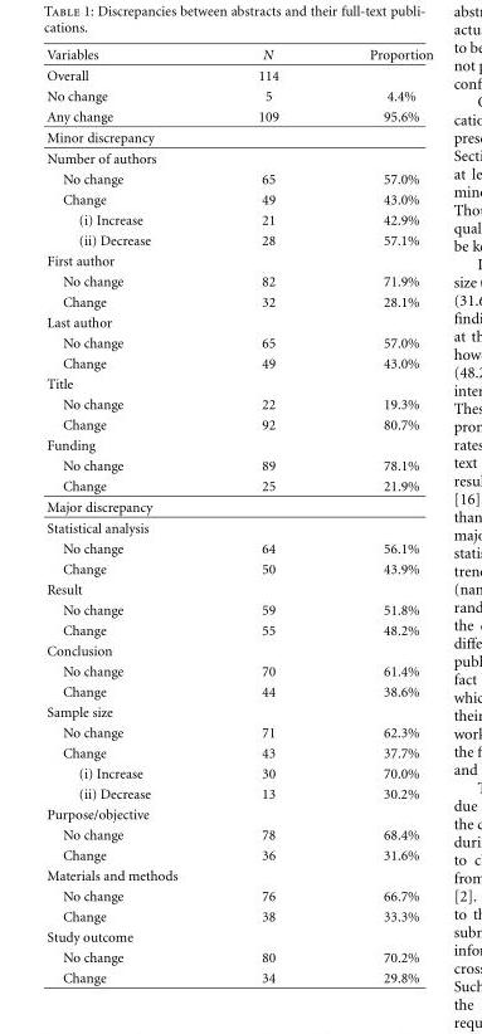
<table><thead><tr><td>Variables</td><td>N</td><td>Proportion</td></tr></thead><tbody><tr><td>Overall</td><td>114</td><td></td></tr><tr><td>No change</td><td>5</td><td>4.4%</td></tr><tr><td>Any change</td><td>109</td><td>95.6%</td></tr><tr><td colspan="3">Minor discrepancy</td></tr><tr><td colspan="3">Number of authors</td></tr><tr><td>No change</td><td>65</td><td>57.0%</td></tr><tr><td>Change</td><td>49</td><td>43.0%</td></tr><tr><td>(i) Increase</td><td>21</td><td>42.9%</td></tr><tr><td>(ii) Decrease</td><td>28</td><td>57.1%</td></tr><tr><td colspan="3">First author</td></tr><tr><td>No change</td><td>82</td><td>71.9%</td></tr><tr><td>Change</td><td>32</td><td>28.1%</td></tr><tr><td colspan="3">Last author</td></tr><tr><td>No change</td><td>65</td><td>57.0%</td></tr><tr><td>Change</td><td>49</td><td>43.0%</td></tr><tr><td colspan="3">Title</td></tr><tr><td>No change</td><td>22</td><td>19.3%</td></tr><tr><td>Change</td><td>92</td><td>80.7%</td></tr><tr><td colspan="3">Funding</td></tr><tr><td>No change</td><td>89</td><td>78.1%</td></tr><tr><td>Change</td><td>25</td><td>21.9%</td></tr><tr><td colspan="3">Major discrepancy</td></tr><tr><td colspan="3">Statistical analysis</td></tr><tr><td>No change</td><td>64</td><td>56.1%</td></tr><tr><td>Change</td><td>50</td><td>43.9%</td></tr><tr><td colspan="3">Result</td></tr><tr><td>No change</td><td>59</td><td>51.8%</td></tr><tr><td>Change</td><td>55</td><td>48.2%</td></tr><tr><td colspan="3">Conclusion</td></tr><tr><td>No change</td><td>70</td><td>61.4%</td></tr><tr><td>Change</td><td>44</td><td>38.6%</td></tr><tr><td colspan="3">Sample size</td></tr><tr><td>No change</td><td>71</td><td>62.3%</td></tr><tr><td>Change</td><td>43</td><td>37.7%</td></tr><tr><td>(i) Increase</td><td>30</td><td>70.0%</td></tr><tr><td>(ii) Decrease</td><td>13</td><td>30.2%</td></tr><tr><td colspan="3">Purpose/objective</td></tr><tr><td>No change</td><td>78</td><td>68.4%</td></tr><tr><td>Change</td><td>36</td><td>31.6%</td></tr><tr><td colspan="3">Materials and methods</td></tr><tr><td>No change</td><td>76</td><td>66.7%</td></tr><tr><td>Change</td><td>38</td><td>33.3%</td></tr><tr><td colspan="3">Study outcome</td></tr><tr><td>No change</td><td>80</td><td>70.2%</td></tr><tr><td>Change</td><td>34</td><td>29.8%</td></tr></tbody></table>